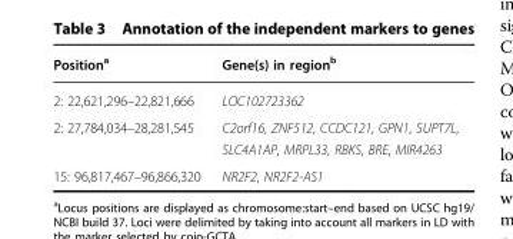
<table><thead><tr><td>Position<sup>a</sup></td><td>Gene(s) in region<sup>b</sup></td></tr></thead><tbody><tr><td>2: 22,621,296–22,821,666</td><td>LOC102723362</td></tr><tr><td>2: 27,784,034–28,281,545</td><td>C2orf16, ZNF512, CCDC121, GPN1, SUPT7L, SLC4A1AP, MRPL33, RBKS, BRE, MIR4263</td></tr><tr><td>15: 96,817,467–96,866,320</td><td>NR2F2, NR2F2-AS1</td></tr></tbody></table>